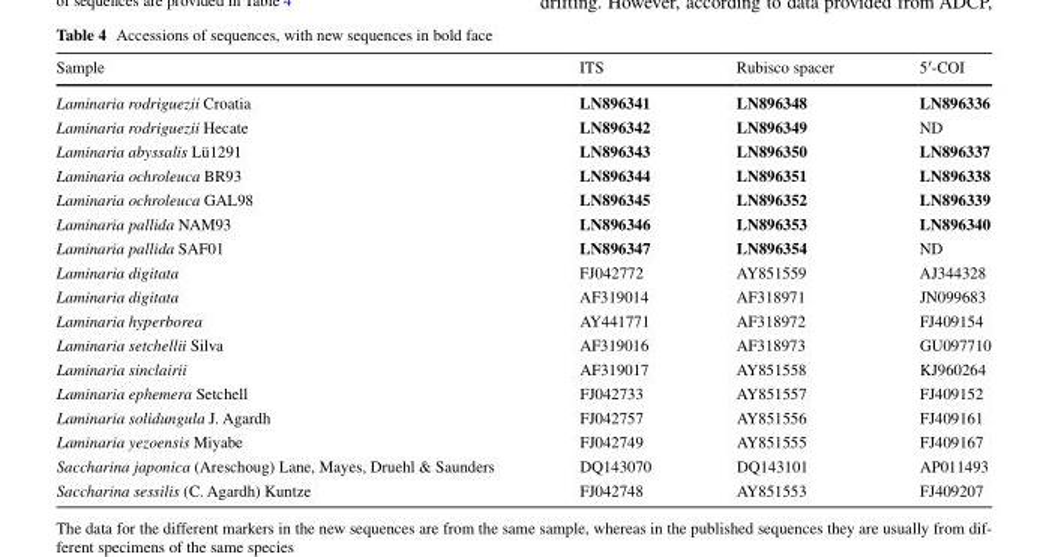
<table><thead><tr><td>Sample</td><td>ITS</td><td>Rubisco spacer</td><td>5′-COI</td></tr></thead><tbody><tr><td>Laminaria rodriguezii Croatia</td><td>LN896341</td><td>LN896348</td><td>LN896336</td></tr><tr><td>Laminaria rodriguezii Hecate</td><td>LN896342</td><td>LN896349</td><td>ND</td></tr><tr><td>Laminaria abyssalis Lü1291</td><td>LN896343</td><td>LN896350</td><td>LN896337</td></tr><tr><td>Laminaria ochroleuca BR93</td><td>LN896344</td><td>LN896351</td><td>LN896338</td></tr><tr><td>Laminaria ochroleuca GAL98</td><td>LN896345</td><td>LN896352</td><td>LN896339</td></tr><tr><td>Laminaria pallida NAM93</td><td>LN896346</td><td>LN896353</td><td>LN896340</td></tr><tr><td>Laminaria pallida SAF01</td><td>LN896347</td><td>LN896354</td><td>ND</td></tr><tr><td>Laminaria digitata</td><td>FJ042772</td><td>AY851559</td><td>AJ344328</td></tr><tr><td>Laminaria digitata</td><td>AF319014</td><td>AF318971</td><td>JN099683</td></tr><tr><td>Laminaria hyperborea</td><td>AY441771</td><td>AF318972</td><td>FJ409154</td></tr><tr><td>Laminaria setchellii Silva</td><td>AF319016</td><td>AF318973</td><td>GU097710</td></tr><tr><td>Laminaria sinclairii</td><td>AF319017</td><td>AY851558</td><td>KJ960264</td></tr><tr><td>Laminaria ephemera Setchell</td><td>FJ042733</td><td>AY851557</td><td>FJ409152</td></tr><tr><td>Laminaria solidungula J. Agardh</td><td>FJ042757</td><td>AY851556</td><td>FJ409161</td></tr><tr><td>Laminaria yezoensis Miyabe</td><td>FJ042749</td><td>AY851555</td><td>FJ409167</td></tr><tr><td>Saccharina japonica (Areschoug) Lane, Mayes, Druehl &amp; Saunders</td><td>DQ143070</td><td>DQ143101</td><td>AP011493</td></tr><tr><td>Saccharina sessilis (C. Agardh) Kuntze</td><td>FJ042748</td><td>AY851553</td><td>FJ409207</td></tr></tbody></table>